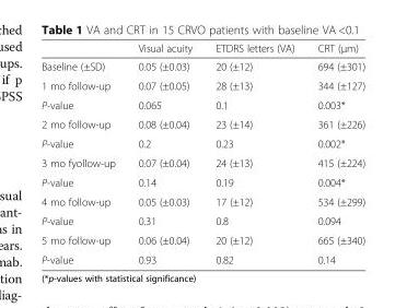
<table><thead><tr><td></td><td>Visual acuity</td><td>ETDRS letters (VA)</td><td>CRT (μm)</td></tr></thead><tbody><tr><td>Baseline (±SD)</td><td>0.05 (±0.03)</td><td>20 (±12)</td><td>694 (±301)</td></tr><tr><td>1 mo follow-up</td><td>0.07 (±0.05)</td><td>28 (±13)</td><td>344 (±127)</td></tr><tr><td>P-value</td><td>0.065</td><td>0.1</td><td>0.003*</td></tr><tr><td>2 mo follow-up</td><td>0.08 (±0.04)</td><td>23 (±14)</td><td>361 (±226)</td></tr><tr><td>P-value</td><td>0.2</td><td>0.23</td><td>0.002*</td></tr><tr><td>3 mo fyollow-up</td><td>0.07 (±0.04)</td><td>24 (±13)</td><td>415 (±224)</td></tr><tr><td>P-value</td><td>0.14</td><td>0.19</td><td>0.004*</td></tr><tr><td>4 mo follow-up</td><td>0.05 (±0.03)</td><td>17 (±12)</td><td>534 (±299)</td></tr><tr><td>P-value</td><td>0.31</td><td>0.8</td><td>0.094</td></tr><tr><td>5 mo follow-up</td><td>0.06 (±0.04)</td><td>20 (±12)</td><td>665 (±340)</td></tr><tr><td>P-value</td><td>0.93</td><td>0.82</td><td>0.14</td></tr></tbody></table>